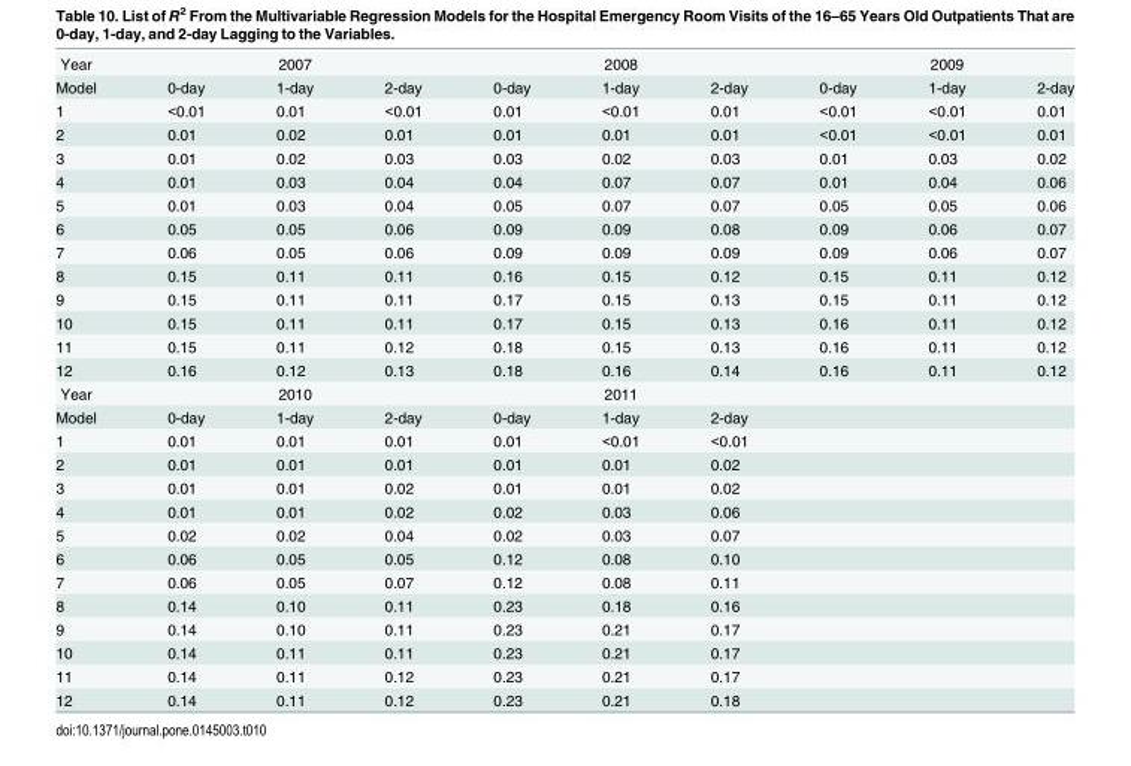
<table><tbody><tr><td>Year</td><td colspan="3">2007</td><td colspan="3">2008</td><td colspan="3">2009</td></tr><tr><td>Model</td><td>0-day</td><td>1-day</td><td>2-day</td><td>0-day</td><td>1-day</td><td>2-day</td><td>0-day</td><td>1-day</td><td>2-day</td></tr><tr><td>1</td><td>&lt;0.01</td><td>0.01</td><td>&lt;0.01</td><td>0.01</td><td>&lt;0.01</td><td>0.01</td><td>&lt;0.01</td><td>&lt;0.01</td><td>0.01</td></tr><tr><td>2</td><td>0.01</td><td>0.02</td><td>0.01</td><td>0.01</td><td>0.01</td><td>0.01</td><td>&lt;0.01</td><td>&lt;0.01</td><td>0.01</td></tr><tr><td>3</td><td>0.01</td><td>0.02</td><td>0.03</td><td>0.03</td><td>0.02</td><td>0.03</td><td>0.01</td><td>0.03</td><td>0.02</td></tr><tr><td>4</td><td>0.01</td><td>0.03</td><td>0.04</td><td>0.04</td><td>0.07</td><td>0.07</td><td>0.01</td><td>0.04</td><td>0.06</td></tr><tr><td>5</td><td>0.01</td><td>0.03</td><td>0.04</td><td>0.05</td><td>0.07</td><td>0.07</td><td>0.05</td><td>0.05</td><td>0.06</td></tr><tr><td>6</td><td>0.05</td><td>0.05</td><td>0.06</td><td>0.09</td><td>0.09</td><td>0.08</td><td>0.09</td><td>0.06</td><td>0.07</td></tr><tr><td>7</td><td>0.06</td><td>0.05</td><td>0.06</td><td>0.09</td><td>0.09</td><td>0.09</td><td>0.09</td><td>0.06</td><td>0.07</td></tr><tr><td>8</td><td>0.15</td><td>0.11</td><td>0.11</td><td>0.16</td><td>0.15</td><td>0.12</td><td>0.15</td><td>0.11</td><td>0.12</td></tr><tr><td>9</td><td>0.15</td><td>0.11</td><td>0.11</td><td>0.17</td><td>0.15</td><td>0.13</td><td>0.15</td><td>0.11</td><td>0.12</td></tr><tr><td>10</td><td>0.15</td><td>0.11</td><td>0.11</td><td>0.17</td><td>0.15</td><td>0.13</td><td>0.16</td><td>0.11</td><td>0.12</td></tr><tr><td>11</td><td>0.15</td><td>0.11</td><td>0.12</td><td>0.18</td><td>0.15</td><td>0.13</td><td>0.16</td><td>0.11</td><td>0.12</td></tr><tr><td>12</td><td>0.16</td><td>0.12</td><td>0.13</td><td>0.18</td><td>0.16</td><td>0.14</td><td>0.16</td><td>0.11</td><td>0.12</td></tr><tr><td>Year</td><td colspan="3">2010</td><td colspan="3">2011</td><td colspan="3"></td></tr><tr><td>Model</td><td>0-day</td><td>1-day</td><td>2-day</td><td>0-day</td><td>1-day</td><td>2-day</td><td></td><td></td><td></td></tr><tr><td>1</td><td>0.01</td><td>0.01</td><td>0.01</td><td>0.01</td><td>&lt;0.01</td><td>&lt;0.01</td><td></td><td></td><td></td></tr><tr><td>2</td><td>0.01</td><td>0.01</td><td>0.01</td><td>0.01</td><td>0.01</td><td>0.02</td><td></td><td></td><td></td></tr><tr><td>3</td><td>0.01</td><td>0.01</td><td>0.02</td><td>0.01</td><td>0.01</td><td>0.02</td><td></td><td></td><td></td></tr><tr><td>4</td><td>0.01</td><td>0.01</td><td>0.02</td><td>0.02</td><td>0.03</td><td>0.06</td><td></td><td></td><td></td></tr><tr><td>5</td><td>0.02</td><td>0.02</td><td>0.04</td><td>0.02</td><td>0.03</td><td>0.07</td><td></td><td></td><td></td></tr><tr><td>6</td><td>0.06</td><td>0.05</td><td>0.05</td><td>0.12</td><td>0.08</td><td>0.10</td><td></td><td></td><td></td></tr><tr><td>7</td><td>0.06</td><td>0.05</td><td>0.07</td><td>0.12</td><td>0.08</td><td>0.11</td><td></td><td></td><td></td></tr><tr><td>8</td><td>0.14</td><td>0.10</td><td>0.11</td><td>0.23</td><td>0.18</td><td>0.16</td><td></td><td></td><td></td></tr><tr><td>9</td><td>0.14</td><td>0.10</td><td>0.11</td><td>0.23</td><td>0.21</td><td>0.17</td><td></td><td></td><td></td></tr><tr><td>10</td><td>0.14</td><td>0.11</td><td>0.11</td><td>0.23</td><td>0.21</td><td>0.17</td><td></td><td></td><td></td></tr><tr><td>11</td><td>0.14</td><td>0.11</td><td>0.12</td><td>0.23</td><td>0.21</td><td>0.17</td><td></td><td></td><td></td></tr><tr><td>12</td><td>0.14</td><td>0.11</td><td>0.12</td><td>0.23</td><td>0.21</td><td>0.18</td><td></td><td></td><td></td></tr></tbody></table>